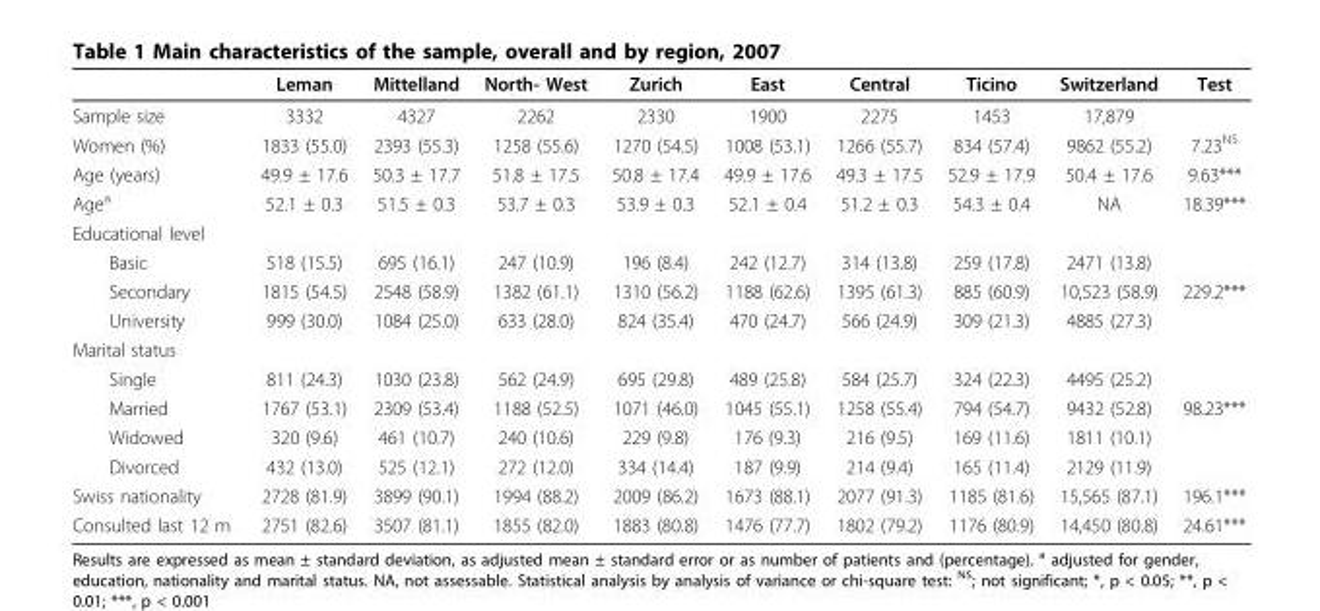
<table><thead><tr><td></td><td>Leman</td><td>Mittelland</td><td>North- West</td><td>Zurich</td><td>East</td><td>Central</td><td>Ticino</td><td>Switzerland</td><td>Test</td></tr></thead><tbody><tr><td>Sample size</td><td>3332</td><td>4327</td><td>2262</td><td>2330</td><td>1900</td><td>2275</td><td>1453</td><td>17,879</td><td></td></tr><tr><td>Women (%)</td><td>1833 (55.0)</td><td>2393 (55.3)</td><td>1258 (55.6)</td><td>1270 (54.5)</td><td>1008 (53.1)</td><td>1266 (55.7)</td><td>834 (57.4)</td><td>9862 (55.2)</td><td>7.23<sup>NS</sup></td></tr><tr><td>Age (years)</td><td>49.9 ± 17.6</td><td>50.3 ± 17.7</td><td>51.8 ± 17.5</td><td>50.8 ± 17.4</td><td>49.9 ± 17.6</td><td>49.3 ± 17.5</td><td>52.9 ± 17.9</td><td>50.4 ± 17.6</td><td>9.63***</td></tr><tr><td>Age<sup>a</sup></td><td>52.1 ± 0.3</td><td>51.5 ± 0.3</td><td>53.7 ± 0.3</td><td>53.9 ± 0.3</td><td>52.1 ± 0.4</td><td>51.2 ± 0.3</td><td>54.3 ± 0.4</td><td>NA</td><td>18.39***</td></tr><tr><td colspan="10">Educational level</td></tr><tr><td>Basic</td><td>518 (15.5)</td><td>695 (16.1)</td><td>247 (10.9)</td><td>196 (8.4)</td><td>242 (12.7)</td><td>314 (13.8)</td><td>259 (17.8)</td><td>2471 (13.8)</td><td></td></tr><tr><td>Secondary</td><td>1815 (54.5)</td><td>2548 (58.9)</td><td>1382 (61.1)</td><td>1310 (56.2)</td><td>1188 (62.6)</td><td>1395 (61.3)</td><td>885 (60.9)</td><td>10,523 (58.9)</td><td>229.2***</td></tr><tr><td>University</td><td>999 (30.0)</td><td>1084 (25.0)</td><td>633 (28.0)</td><td>824 (35.4)</td><td>470 (24.7)</td><td>566 (24.9)</td><td>309 (21.3)</td><td>4885 (27.3)</td><td></td></tr><tr><td colspan="10">Marital status</td></tr><tr><td>Single</td><td>811 (24.3)</td><td>1030 (23.8)</td><td>562 (24.9)</td><td>695 (29.8)</td><td>489 (25.8)</td><td>584 (25.7)</td><td>324 (22.3)</td><td>4495 (25.2)</td><td></td></tr><tr><td>Married</td><td>1767 (53.1)</td><td>2309 (53.4)</td><td>1188 (52.5)</td><td>1071 (46.0)</td><td>1045 (55.1)</td><td>1258 (55.4)</td><td>794 (54.7)</td><td>9432 (52.8)</td><td>98.23***</td></tr><tr><td>Widowed</td><td>320 (9.6)</td><td>461 (10.7)</td><td>240 (10.6)</td><td>229 (9.8)</td><td>176 (9.3)</td><td>216 (9.5)</td><td>169 (11.6)</td><td>1811 (10.1)</td><td></td></tr><tr><td>Divorced</td><td>432 (13.0)</td><td>525 (12.1)</td><td>272 (12.0)</td><td>334 (14.4)</td><td>187 (9.9)</td><td>214 (9.4)</td><td>165 (11.4)</td><td>2129 (11.9)</td><td></td></tr><tr><td>Swiss nationality</td><td>2728 (81.9)</td><td>3899 (90.1)</td><td>1994 (88.2)</td><td>2009 (86.2)</td><td>1673 (88.1)</td><td>2077 (91.3)</td><td>1185 (81.6)</td><td>15,565 (87.1)</td><td>196.1***</td></tr><tr><td>Consulted last 12 m</td><td>2751 (82.6)</td><td>3507 (81.1)</td><td>1855 (82.0)</td><td>1883 (80.8)</td><td>1476 (77.7)</td><td>1802 (79.2)</td><td>1176 (80.9)</td><td>14,450 (80.8)</td><td>24.61***</td></tr></tbody></table>